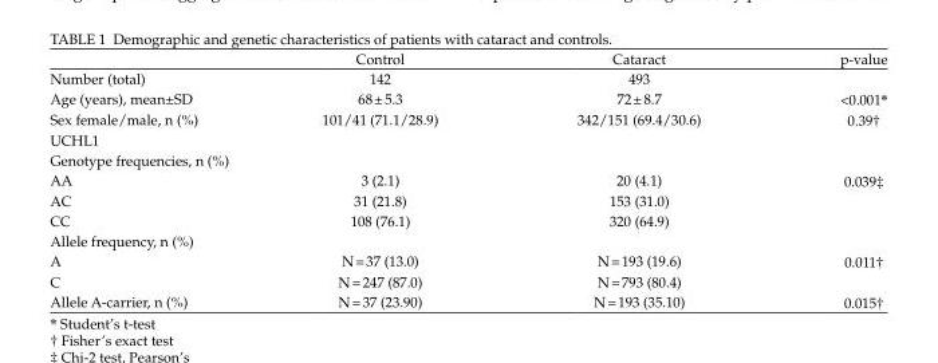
<table><thead><tr><td></td><td>Control</td><td>Cataract</td><td>p-value</td></tr></thead><tbody><tr><td>Number (total)</td><td>142</td><td>493</td><td></td></tr><tr><td>Age (years), mean±SD</td><td>68 ± 5.3</td><td>72 ± 8.7</td><td>&lt;0.001*</td></tr><tr><td>Sex female/male, n (%)</td><td>101/41 (71.1/28.9)</td><td>342/151 (69.4/30.6)</td><td>0.39†</td></tr><tr><td colspan="4">UCHL1</td></tr><tr><td colspan="4">Genotype frequencies, n (%)</td></tr><tr><td>AA</td><td>3 (2.1)</td><td>20 (4.1)</td><td>0.039‡</td></tr><tr><td>AC</td><td>31 (21.8)</td><td>153 (31.0)</td><td></td></tr><tr><td>CC</td><td>108 (76.1)</td><td>320 (64.9)</td><td></td></tr><tr><td colspan="4">Allele frequency, n (%)</td></tr><tr><td>A</td><td>N = 37 (13.0)</td><td>N = 193 (19.6)</td><td>0.011†</td></tr><tr><td>C</td><td>N = 247 (87.0)</td><td>N = 793 (80.4)</td><td></td></tr><tr><td>Allele A-carrier, n (%)</td><td>N = 37 (23.90)</td><td>N = 193 (35.10)</td><td>0.015†</td></tr></tbody></table>